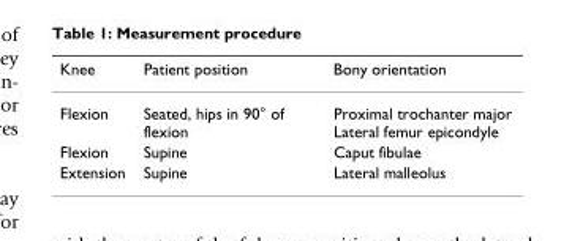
<table><thead><tr><td>Knee</td><td>Patient position</td><td>Bony orientation</td></tr></thead><tbody><tr><td>Flexion</td><td>Seated, hips in 90° of flexion</td><td>Proximal trochanter major Lateral femur epicondyle</td></tr><tr><td>Flexion</td><td>Supine</td><td>Caput fibulae</td></tr><tr><td>Extension</td><td>Supine</td><td>Lateral malleolus</td></tr></tbody></table>